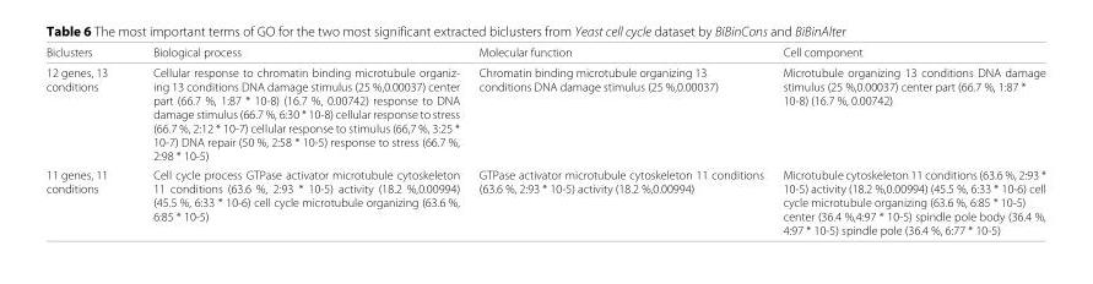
<table><thead><tr><td>Biclusters</td><td>Biological process</td><td>Molecular function</td><td>Cell component</td></tr></thead><tbody><tr><td>12 genes, 13 conditions</td><td>Cellular response to chromatin binding microtubule organiz- ing 13 conditions DNA damage stimulus (25 %,0.00037) center part (66.7 %, 1:87 * 10-8) (16.7 %, 0.00742) response to DNA damage stimulus (66.7 %, 6:30 * 10-8) cellular response to stress (66.7 %, 2:12 * 10-7) cellular response to stimulus (66,7 %, 3:25 * 10-7) DNA repair (50 %, 2:58 * 10-5) response to stress (66.7 %, 2:98 * 10-5)</td><td>Chromatin binding microtubule organizing 13 conditions DNA damage stimulus (25 %,0.00037)</td><td>Microtubule organizing 13 conditions DNA damage stimulus (25 %,0.00037) center part (66.7 %, 1:87 * 10-8) (16.7 %, 0.00742)</td></tr><tr><td>11 genes, 11 conditions</td><td>Cell cycle process GTPase activator microtubule cytoskeleton 11 conditions (63.6 %, 2:93 * 10-5) activity (18.2 %,0.00994) (45.5 %, 6:33 * 10-6) cell cycle microtubule organizing (63.6 %, 6:85 * 10-5)</td><td>GTPase activator microtubule cytoskeleton 11 conditions (63.6 %, 2:93 * 10-5) activity (18.2 %,0.00994)</td><td>Microtubule cytoskeleton 11 conditions (63.6 %, 2:93 * 10-5) activity (18.2 %,0.00994) (45.5 %, 6:33 * 10-6) cell cycle microtubule organizing (63.6 %, 6:85 * 10-5) center (36.4 %,4:97 * 10-5) spindle pole body (36.4 %, 4:97 * 10-5) spindle pole (36.4 %, 6:77 * 10-5)</td></tr></tbody></table>